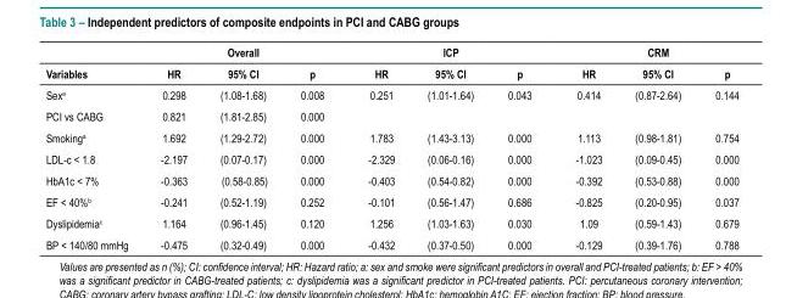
<table><thead><tr><td rowspan="2">Variables</td><td colspan="3">Overall</td><td colspan="3">ICP</td><td colspan="3">CRM</td></tr><tr><td>HR</td><td>95% CI</td><td>p</td><td>HR</td><td>95% CI</td><td>p</td><td>HR</td><td>95% CI</td><td>p</td></tr></thead><tbody><tr><td>Sex<sup>a</sup></td><td>0.298</td><td>(1.08-1.68)</td><td>0.008</td><td>0.251</td><td>(1.01-1.64)</td><td>0.043</td><td>0.414</td><td>(0.87-2.64)</td><td>0.144</td></tr><tr><td>PCI vs CABG</td><td>0.821</td><td>(1.81-2.85)</td><td>0.000</td><td></td><td></td><td></td><td></td><td></td><td></td></tr><tr><td>Smoking<sup>a</sup></td><td>1.692</td><td>(1.29-2.72)</td><td>0.000</td><td>1.783</td><td>(1.43-3.13)</td><td>0.000</td><td>1.113</td><td>(0.98-1.81)</td><td>0.754</td></tr><tr><td>LDL-c &lt; 1.8</td><td>-2.197</td><td>(0.07-0.17)</td><td>0.000</td><td>-2.329</td><td>(0.06-0.16)</td><td>0.000</td><td>-1.023</td><td>(0.09-0.45)</td><td>0.000</td></tr><tr><td>HbA1c &lt; 7%</td><td>-0.363</td><td>(0.58-0.85)</td><td>0.000</td><td>-0.403</td><td>(0.54-0.82)</td><td>0.000</td><td>-0.392</td><td>(0.53-0.88)</td><td>0.000</td></tr><tr><td>EF &lt; 40%<sup>b</sup></td><td>-0.241</td><td>(0.52-1.19)</td><td>0.252</td><td>-0.101</td><td>(0.56-1.47)</td><td>0.686</td><td>-0.825</td><td>(0.20-0.95)</td><td>0.037</td></tr><tr><td>Dyslipidemia<sup>c</sup></td><td>1.164</td><td>(0.96-1.45)</td><td>0.120</td><td>1.256</td><td>(1.03-1.63)</td><td>0.030</td><td>1.09</td><td>(0.59-1.43)</td><td>0.679</td></tr><tr><td>BP &lt; 140/80 mmHg</td><td>-0.475</td><td>(0.32-0.49)</td><td>0.000</td><td>-0.432</td><td>(0.37-0.50)</td><td>0.000</td><td>-0.129</td><td>(0.39-1.76)</td><td>0.788</td></tr></tbody></table>